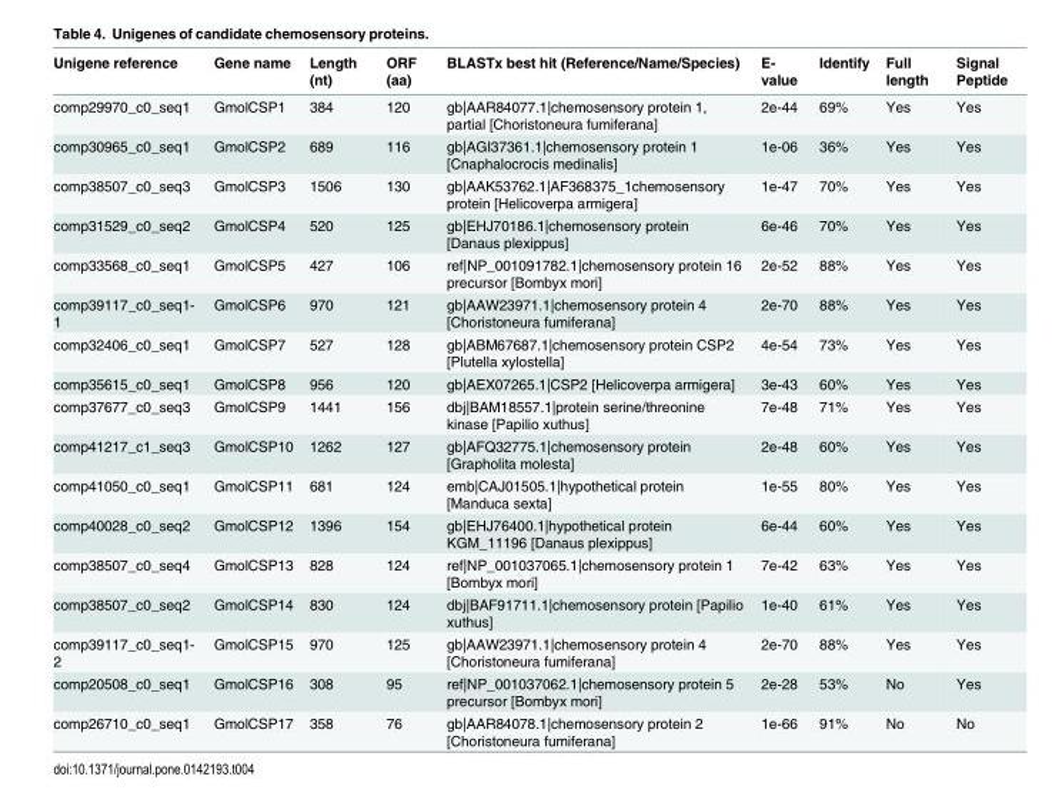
<table><thead><tr><td>Unigene reference</td><td>Gene name</td><td>Length (nt)</td><td>ORF (aa)</td><td>BLASTx best hit (Reference/Name/Species)</td><td>E- value</td><td>Identify</td><td>Full length</td><td>Signal Peptide</td></tr></thead><tbody><tr><td>comp29970_c0_seq1</td><td>GmolCSP1</td><td>384</td><td>120</td><td>gb|AAR84077.1|chemosensory protein 1, partial [Choristoneura fumiferana]</td><td>2e-44</td><td>69%</td><td>Yes</td><td>Yes</td></tr><tr><td>comp30965_c0_seq1</td><td>GmolCSP2</td><td>689</td><td>116</td><td>gb|AGI37361.1|chemosensory protein 1 [Cnaphalocrocis medinalis]</td><td>1e-06</td><td>36%</td><td>Yes</td><td>Yes</td></tr><tr><td>comp38507_c0_seq3</td><td>GmolCSP3</td><td>1506</td><td>130</td><td>gb|AAK53762.1|AF368375_1chemosensory protein [Helicoverpa armigera]</td><td>1e-47</td><td>70%</td><td>Yes</td><td>Yes</td></tr><tr><td>comp31529_c0_seq2</td><td>GmolCSP4</td><td>520</td><td>125</td><td>gb|EHJ70186.1|chemosensory protein [Danaus plexippus]</td><td>6e-46</td><td>70%</td><td>Yes</td><td>Yes</td></tr><tr><td>comp33568_c0_seq1</td><td>GmolCSP5</td><td>427</td><td>106</td><td>ref|NP_001091782.1|chemosensory protein 16 precursor [Bombyx mori]</td><td>2e-52</td><td>88%</td><td>Yes</td><td>Yes</td></tr><tr><td>comp39117_c0_seq1- 1</td><td>GmolCSP6</td><td>970</td><td>121</td><td>gb|AAW23971.1|chemosensory protein 4 [Choristoneura fumiferana]</td><td>2e-70</td><td>88%</td><td>Yes</td><td>Yes</td></tr><tr><td>comp32406_c0_seq1</td><td>GmolCSP7</td><td>527</td><td>128</td><td>gb|ABM67687.1|chemosensory protein CSP2 [Plutella xylostella]</td><td>4e-54</td><td>73%</td><td>Yes</td><td>Yes</td></tr><tr><td>comp35615_c0_seq1</td><td>GmolCSP8</td><td>956</td><td>120</td><td>gb|AEX07265.1|CSP2 [Helicoverpa armigera]</td><td>3e-43</td><td>60%</td><td>Yes</td><td>Yes</td></tr><tr><td>comp37677_c0_seq3</td><td>GmolCSP9</td><td>1441</td><td>156</td><td>dbj|BAM18557.1|protein serine/threonine kinase [Papilio xuthus]</td><td>7e-48</td><td>71%</td><td>Yes</td><td>Yes</td></tr><tr><td>comp41217_c1_seq3</td><td>GmolCSP10</td><td>1262</td><td>127</td><td>gb|AFQ32775.1|chemosensory protein [Grapholita molesta]</td><td>2e-48</td><td>60%</td><td>Yes</td><td>Yes</td></tr><tr><td>comp41050_c0_seq1</td><td>GmolCSP11</td><td>681</td><td>124</td><td>emb|CAJ01505.1|hypothetical protein [Manduca sexta]</td><td>1e-55</td><td>80%</td><td>Yes</td><td>Yes</td></tr><tr><td>comp40028_c0_seq2</td><td>GmolCSP12</td><td>1396</td><td>154</td><td>gb|EHJ76400.1|hypothetical protein KGM_11196 [Danaus plexippus]</td><td>6e-44</td><td>60%</td><td>Yes</td><td>Yes</td></tr><tr><td>comp38507_c0_seq4</td><td>GmolCSP13</td><td>828</td><td>124</td><td>ref|NP_001037065.1|chemosensory protein 1 [Bombyx mori]</td><td>7e-42</td><td>63%</td><td>Yes</td><td>Yes</td></tr><tr><td>comp38507_c0_seq2</td><td>GmolCSP14</td><td>830</td><td>124</td><td>dbj|BAF91711.1|chemosensory protein [Papilio xuthus]</td><td>1e-40</td><td>61%</td><td>Yes</td><td>Yes</td></tr><tr><td>comp39117_c0_seq1- 2</td><td>GmolCSP15</td><td>970</td><td>125</td><td>gb|AAW23971.1|chemosensory protein 4 [Choristoneura fumiferana]</td><td>2e-70</td><td>88%</td><td>Yes</td><td>Yes</td></tr><tr><td>comp20508_c0_seq1</td><td>GmolCSP16</td><td>308</td><td>95</td><td>ref|NP_001037062.1|chemosensory protein 5 precursor [Bombyx mori]</td><td>2e-28</td><td>53%</td><td>No</td><td>Yes</td></tr><tr><td>comp26710_c0_seq1</td><td>GmolCSP17</td><td>358</td><td>76</td><td>gb|AAR84078.1|chemosensory protein 2 [Choristoneura fumiferana]</td><td>1e-66</td><td>91%</td><td>No</td><td>No</td></tr></tbody></table>